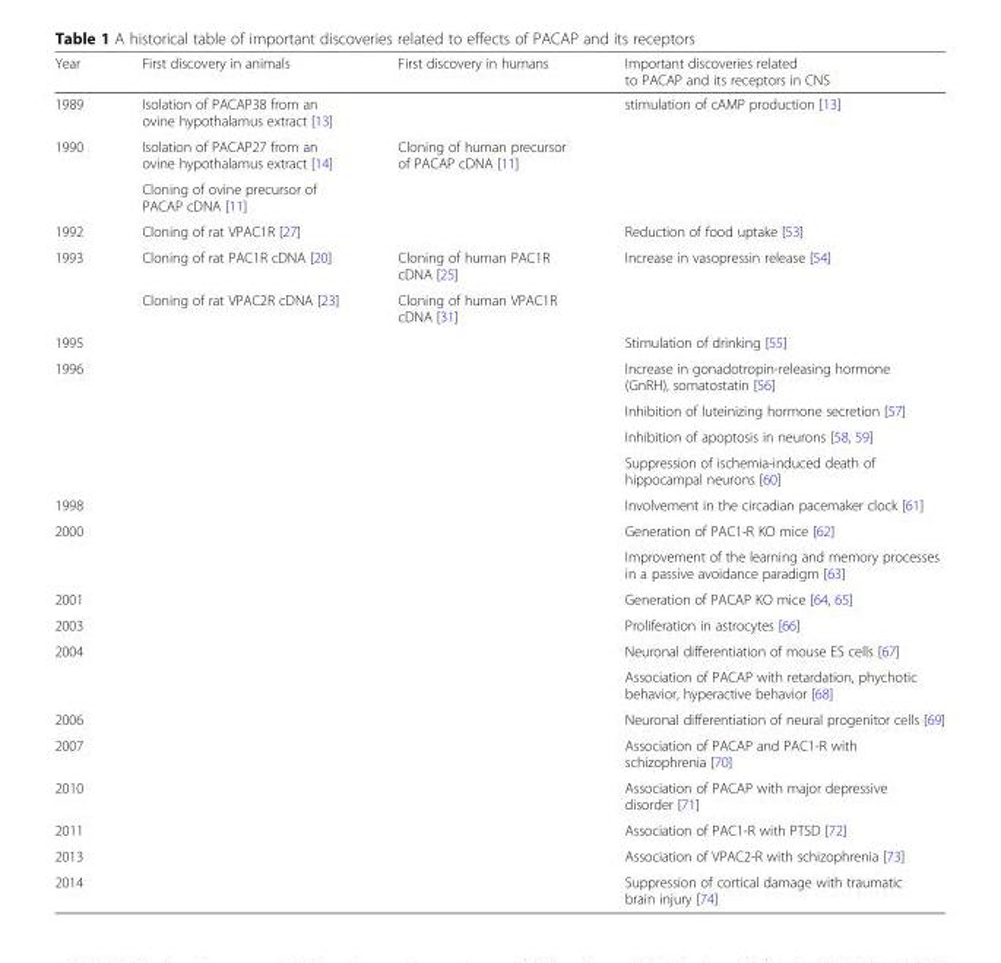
<table><thead><tr><td>Year</td><td>First discovery in animals</td><td>First discovery in humans</td><td>Important discoveries related to PACAP and its receptors in CNS</td></tr></thead><tbody><tr><td>1989</td><td>Isolation of PACAP38 from an ovine hypothalamus extract [13]</td><td></td><td>stimulation of cAMP production [13]</td></tr><tr><td rowspan="2">1990</td><td>Isolation of PACAP27 from an ovine hypothalamus extract [14]</td><td>Cloning of human precursor of PACAP cDNA [11]</td><td></td></tr><tr><td>Cloning of ovine precursor of PACAP cDNA [11]</td><td></td><td></td></tr><tr><td>1992</td><td>Cloning of rat VPAC1R [27]</td><td></td><td>Reduction of food uptake [53]</td></tr><tr><td rowspan="2">1993</td><td>Cloning of rat PAC1R cDNA [20]</td><td>Cloning of human PAC1R cDNA [25]</td><td rowspan="2">Increase in vasopressin release [54]</td></tr><tr><td>Cloning of rat VPAC2R cDNA [23]</td><td>Cloning of human VPAC1R cDNA [31]</td></tr><tr><td>1995</td><td></td><td></td><td>Stimulation of drinking [55]</td></tr><tr><td rowspan="4">1996</td><td rowspan="4"></td><td rowspan="4"></td><td>Increase in gonadotropin-releasing hormone (GnRH), somatostatin [56]</td></tr><tr><td>Inhibition of luteinizing hormone secretion [57]</td></tr><tr><td>Inhibition of apoptosis in neurons [58, 59]</td></tr><tr><td>Suppression of ischemia-induced death of hippocampal neurons [60]</td></tr><tr><td>1998</td><td></td><td></td><td>Involvement in the circadian pacemaker clock [61]</td></tr><tr><td rowspan="2">2000</td><td rowspan="2"></td><td rowspan="2"></td><td>Generation of PAC1-R KO mice [62]</td></tr><tr><td>Improvement of the learning and memory processes in a passive avoidance paradigm [63]</td></tr><tr><td>2001</td><td></td><td></td><td>Generation of PACAP KO mice [64, 65]</td></tr><tr><td>2003</td><td></td><td></td><td>Proliferation in astrocytes [66]</td></tr><tr><td rowspan="2">2004</td><td rowspan="2"></td><td rowspan="2"></td><td>Neuronal differentiation of mouse ES cells [67]</td></tr><tr><td>Association of PACAP with retardation, phychotic behavior, hyperactive behavior [68]</td></tr><tr><td>2006</td><td></td><td></td><td>Neuronal differentiation of neural progenitor cells [69]</td></tr><tr><td>2007</td><td></td><td></td><td>Association of PACAP and PAC1-R with schizophrenia [70]</td></tr><tr><td>2010</td><td></td><td></td><td>Association of PACAP with major depressive disorder [71]</td></tr><tr><td>2011</td><td></td><td></td><td>Association of PAC1-R with PTSD [72]</td></tr><tr><td>2013</td><td></td><td></td><td>Association of VPAC2-R with schizophrenia [73]</td></tr><tr><td>2014</td><td></td><td></td><td>Suppression of cortical damage with traumatic brain injury [74]</td></tr></tbody></table>